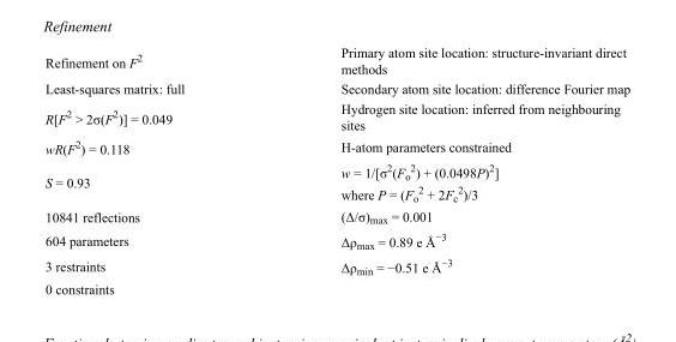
<table><tbody><tr><td>Refinement on F<sup>2</sup></td><td>Primary atom site location: structure-invariant direct methods</td></tr><tr><td>Least-squares matrix: full</td><td>Secondary atom site location: difference Fourier map</td></tr><tr><td>R[F<sup>2</sup> &gt; 2σ(F<sup>2</sup>)] = 0.049</td><td>Hydrogen site location: inferred from neighbouring sites</td></tr><tr><td>wR(F<sup>2</sup>) = 0.118</td><td>H-atom parameters constrained</td></tr><tr><td>S = 0.93</td><td>w = 1/[σ<sup>2</sup>(F<sub>o</sub> <sup>2</sup>) + (0.0498P)<sup>2</sup>] where P = (F<sub>o</sub> <sup>2</sup> + 2F<sub>c</sub> <sup>2</sup>)/3</td></tr><tr><td>10841 reflections</td><td>(Δ/σ)<sub>max</sub> = 0.001</td></tr><tr><td>604 parameters</td><td>Δρ<sub>max</sub> = 0.89 e Å<sup>−3</sup></td></tr><tr><td>3 restraints</td><td>Δρ<sub>min</sub> = −0.51 e Å<sup>−3</sup></td></tr><tr><td>0 constraints</td><td></td></tr></tbody></table>